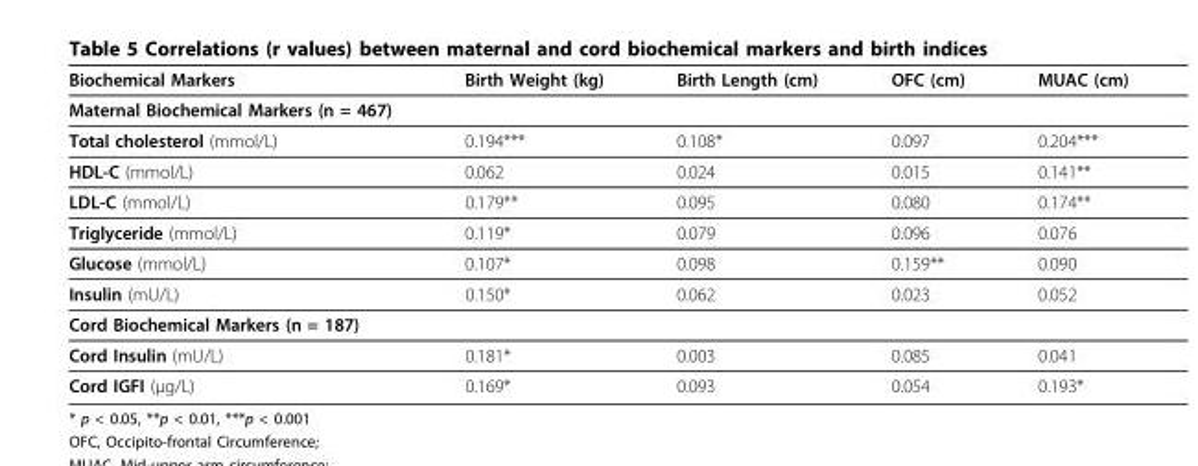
<table><thead><tr><td>Biochemical Markers</td><td>Birth Weight (kg)</td><td>Birth Length (cm)</td><td>OFC (cm)</td><td>MUAC (cm)</td></tr></thead><tbody><tr><td colspan="5">Maternal Biochemical Markers (n = 467)</td></tr><tr><td>Total cholesterol (mmol/L)</td><td>0.194***</td><td>0.108*</td><td>0.097</td><td>0.204***</td></tr><tr><td>HDL-C (mmol/L)</td><td>0.062</td><td>0.024</td><td>0.015</td><td>0.141**</td></tr><tr><td>LDL-C (mmol/L)</td><td>0.179**</td><td>0.095</td><td>0.080</td><td>0.174**</td></tr><tr><td>Triglyceride (mmol/L)</td><td>0.119*</td><td>0.079</td><td>0.096</td><td>0.076</td></tr><tr><td>Glucose (mmol/L)</td><td>0.107*</td><td>0.098</td><td>0.159**</td><td>0.090</td></tr><tr><td>Insulin (mU/L)</td><td>0.150*</td><td>0.062</td><td>0.023</td><td>0.052</td></tr><tr><td colspan="5">Cord Biochemical Markers (n = 187)</td></tr><tr><td>Cord Insulin (mU/L)</td><td>0.181*</td><td>0.003</td><td>0.085</td><td>0.041</td></tr><tr><td>Cord IGFI (μg/L)</td><td>0.169*</td><td>0.093</td><td>0.054</td><td>0.193*</td></tr></tbody></table>